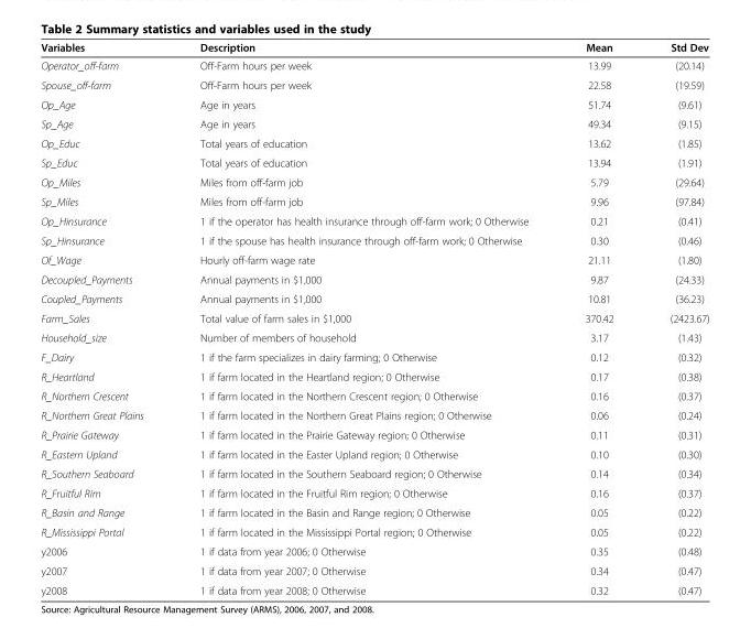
<table><thead><tr><td>Variables</td><td>Description</td><td>Mean</td><td>Std Dev</td></tr></thead><tbody><tr><td>Operator_off-farm</td><td>Off-Farm hours per week</td><td>13.99</td><td>(20.14)</td></tr><tr><td>Spouse_off-farm</td><td>Off-Farm hours per week</td><td>22.58</td><td>(19.59)</td></tr><tr><td>Op_Age</td><td>Age in years</td><td>51.74</td><td>(9.61)</td></tr><tr><td>Sp_Age</td><td>Age in years</td><td>49.34</td><td>(9.15)</td></tr><tr><td>Op_Educ</td><td>Total years of education</td><td>13.62</td><td>(1.85)</td></tr><tr><td>Sp_Educ</td><td>Total years of education</td><td>13.94</td><td>(1.91)</td></tr><tr><td>Op_Miles</td><td>Miles from off-farm job</td><td>5.79</td><td>(29.64)</td></tr><tr><td>Sp_Miles</td><td>Miles from off-farm job</td><td>9.96</td><td>(97.84)</td></tr><tr><td>Op_Hinsurance</td><td>1 if the operator has health insurance through off-farm work; 0 Otherwise</td><td>0.21</td><td>(0.41)</td></tr><tr><td>Sp_Hinsurance</td><td>1 if the spouse has health insurance through off-farm work; 0 Otherwise</td><td>0.30</td><td>(0.46)</td></tr><tr><td>Of_Wage</td><td>Hourly off-farm wage rate</td><td>21.11</td><td>(1.80)</td></tr><tr><td>Decoupled_Payments</td><td>Annual payments in $1,000</td><td>9.87</td><td>(24.33)</td></tr><tr><td>Coupled_Payments</td><td>Annual payments in $1,000</td><td>10.81</td><td>(36.23)</td></tr><tr><td>Farm_Sales</td><td>Total value of farm sales in $1,000</td><td>370.42</td><td>(2423.67)</td></tr><tr><td>Household_size</td><td>Number of members of household</td><td>3.17</td><td>(1.43)</td></tr><tr><td>F_Dairy</td><td>1 if the farm specializes in dairy farming; 0 Otherwise</td><td>0.12</td><td>(0.32)</td></tr><tr><td>R_Heartland</td><td>1 if farm located in the Heartland region; 0 Otherwise</td><td>0.17</td><td>(0.38)</td></tr><tr><td>R_Northern Crescent</td><td>1 if farm located in the Northern Crescent region; 0 Otherwise</td><td>0.16</td><td>(0.37)</td></tr><tr><td>R_Northern Great Plains</td><td>1 if farm located in the Northern Great Plains region; 0 Otherwise</td><td>0.06</td><td>(0.24)</td></tr><tr><td>R_Prairie Gateway</td><td>1 if farm located in the Prairie Gateway region; 0 Otherwise</td><td>0.11</td><td>(0.31)</td></tr><tr><td>R_Eastern Upland</td><td>1 if farm located in the Easter Upland region; 0 Otherwise</td><td>0.10</td><td>(0.30)</td></tr><tr><td>R_Southern Seaboard</td><td>1 if farm located in the Southern Seaboard region; 0 Otherwise</td><td>0.14</td><td>(0.34)</td></tr><tr><td>R_Fruitful Rim</td><td>1 if farm located in the Fruitful Rim region; 0 Otherwise</td><td>0.16</td><td>(0.37)</td></tr><tr><td>R_Basin and Range</td><td>1 if farm located in the Basin and Range region; 0 Otherwise</td><td>0.05</td><td>(0.22)</td></tr><tr><td>R_Mississippi Portal</td><td>1 if farm located in the Mississippi Portal region; 0 Otherwise</td><td>0.05</td><td>(0.22)</td></tr><tr><td>y2006</td><td>1 if data from year 2006; 0 Otherwise</td><td>0.35</td><td>(0.48)</td></tr><tr><td>y2007</td><td>1 if data from year 2007; 0 Otherwise</td><td>0.34</td><td>(0.47)</td></tr><tr><td>y2008</td><td>1 if data from year 2008; 0 Otherwise</td><td>0.32</td><td>(0.47)</td></tr></tbody></table>